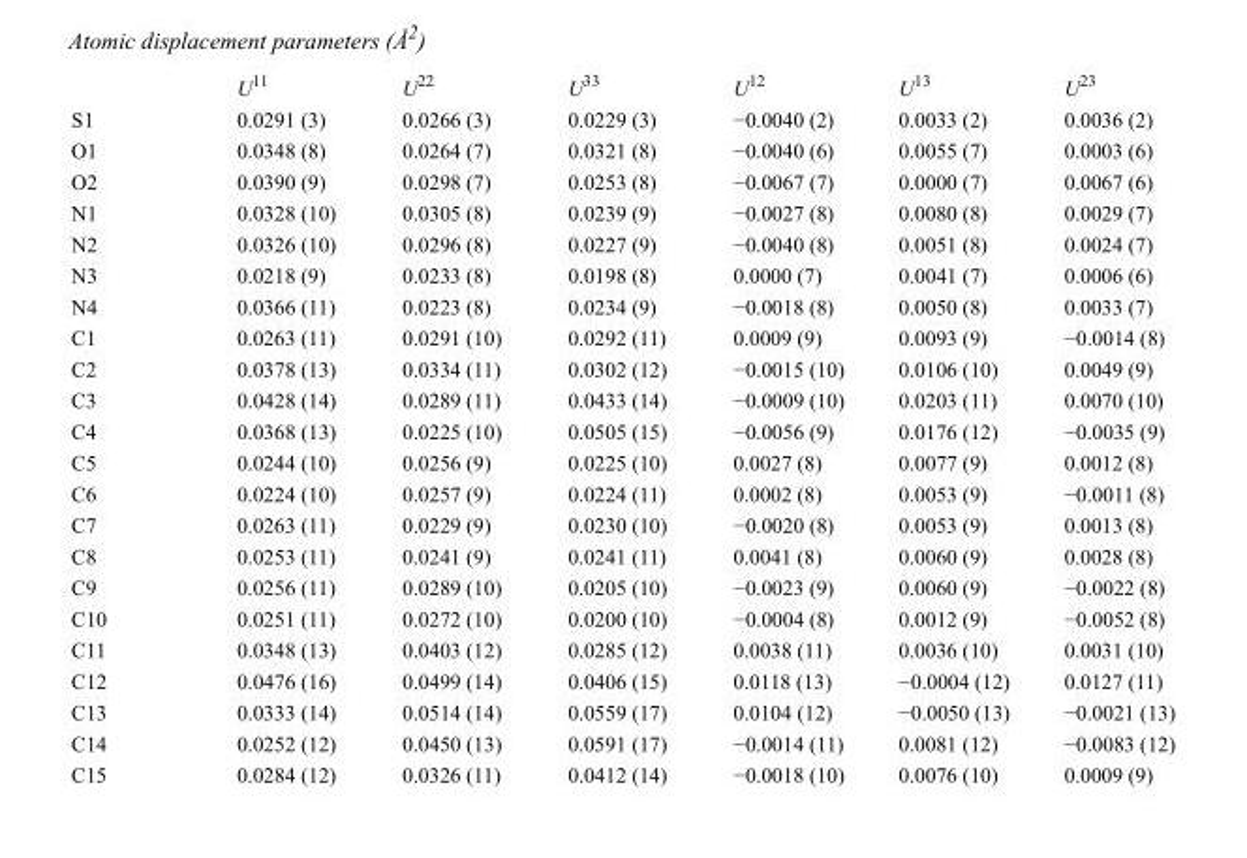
<table><thead><tr><td></td><td>U<sup>11</sup></td><td>U<sup>22</sup></td><td>U<sup>33</sup></td><td>U<sup>12</sup></td><td>U<sup>13</sup></td><td>U<sup>23</sup></td></tr></thead><tbody><tr><td>S1</td><td>0.0291 (3)</td><td>0.0266 (3)</td><td>0.0229 (3)</td><td>−0.0040 (2)</td><td>0.0033 (2)</td><td>0.0036 (2)</td></tr><tr><td>O1</td><td>0.0348 (8)</td><td>0.0264 (7)</td><td>0.0321 (8)</td><td>−0.0040 (6)</td><td>0.0055 (7)</td><td>0.0003 (6)</td></tr><tr><td>O2</td><td>0.0390 (9)</td><td>0.0298 (7)</td><td>0.0253 (8)</td><td>−0.0067 (7)</td><td>0.0000 (7)</td><td>0.0067 (6)</td></tr><tr><td>N1</td><td>0.0328 (10)</td><td>0.0305 (8)</td><td>0.0239 (9)</td><td>−0.0027 (8)</td><td>0.0080 (8)</td><td>0.0029 (7)</td></tr><tr><td>N2</td><td>0.0326 (10)</td><td>0.0296 (8)</td><td>0.0227 (9)</td><td>−0.0040 (8)</td><td>0.0051 (8)</td><td>0.0024 (7)</td></tr><tr><td>N3</td><td>0.0218 (9)</td><td>0.0233 (8)</td><td>0.0198 (8)</td><td>0.0000 (7)</td><td>0.0041 (7)</td><td>0.0006 (6)</td></tr><tr><td>N4</td><td>0.0366 (11)</td><td>0.0223 (8)</td><td>0.0234 (9)</td><td>−0.0018 (8)</td><td>0.0050 (8)</td><td>0.0033 (7)</td></tr><tr><td>C1</td><td>0.0263 (11)</td><td>0.0291 (10)</td><td>0.0292 (11)</td><td>0.0009 (9)</td><td>0.0093 (9)</td><td>−0.0014 (8)</td></tr><tr><td>C2</td><td>0.0378 (13)</td><td>0.0334 (11)</td><td>0.0302 (12)</td><td>−0.0015 (10)</td><td>0.0106 (10)</td><td>0.0049 (9)</td></tr><tr><td>C3</td><td>0.0428 (14)</td><td>0.0289 (11)</td><td>0.0433 (14)</td><td>−0.0009 (10)</td><td>0.0203 (11)</td><td>0.0070 (10)</td></tr><tr><td>C4</td><td>0.0368 (13)</td><td>0.0225 (10)</td><td>0.0505 (15)</td><td>−0.0056 (9)</td><td>0.0176 (12)</td><td>−0.0035 (9)</td></tr><tr><td>C5</td><td>0.0244 (10)</td><td>0.0256 (9)</td><td>0.0225 (10)</td><td>0.0027 (8)</td><td>0.0077 (9)</td><td>0.0012 (8)</td></tr><tr><td>C6</td><td>0.0224 (10)</td><td>0.0257 (9)</td><td>0.0224 (11)</td><td>0.0002 (8)</td><td>0.0053 (9)</td><td>−0.0011 (8)</td></tr><tr><td>C7</td><td>0.0263 (11)</td><td>0.0229 (9)</td><td>0.0230 (10)</td><td>−0.0020 (8)</td><td>0.0053 (9)</td><td>0.0013 (8)</td></tr><tr><td>C8</td><td>0.0253 (11)</td><td>0.0241 (9)</td><td>0.0241 (11)</td><td>0.0041 (8)</td><td>0.0060 (9)</td><td>0.0028 (8)</td></tr><tr><td>C9</td><td>0.0256 (11)</td><td>0.0289 (10)</td><td>0.0205 (10)</td><td>−0.0023 (9)</td><td>0.0060 (9)</td><td>−0.0022 (8)</td></tr><tr><td>C10</td><td>0.0251 (11)</td><td>0.0272 (10)</td><td>0.0200 (10)</td><td>−0.0004 (8)</td><td>0.0012 (9)</td><td>−0.0052 (8)</td></tr><tr><td>C11</td><td>0.0348 (13)</td><td>0.0403 (12)</td><td>0.0285 (12)</td><td>0.0038 (11)</td><td>0.0036 (10)</td><td>0.0031 (10)</td></tr><tr><td>C12</td><td>0.0476 (16)</td><td>0.0499 (14)</td><td>0.0406 (15)</td><td>0.0118 (13)</td><td>−0.0004 (12)</td><td>0.0127 (11)</td></tr><tr><td>C13</td><td>0.0333 (14)</td><td>0.0514 (14)</td><td>0.0559 (17)</td><td>0.0104 (12)</td><td>−0.0050 (13)</td><td>−0.0021 (13)</td></tr><tr><td>C14</td><td>0.0252 (12)</td><td>0.0450 (13)</td><td>0.0591 (17)</td><td>−0.0014 (11)</td><td>0.0081 (12)</td><td>−0.0083 (12)</td></tr><tr><td>C15</td><td>0.0284 (12)</td><td>0.0326 (11)</td><td>0.0412 (14)</td><td>−0.0018 (10)</td><td>0.0076 (10)</td><td>0.0009 (9)</td></tr></tbody></table>